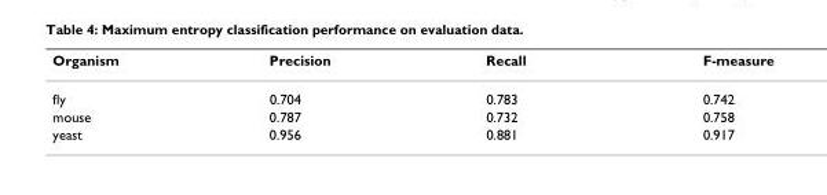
<table><thead><tr><td>Organism</td><td>Precision</td><td>Recall</td><td>F-measure</td></tr></thead><tbody><tr><td>fly</td><td>0.704</td><td>0.783</td><td>0.742</td></tr><tr><td>mouse</td><td>0.787</td><td>0.732</td><td>0.758</td></tr><tr><td>yeast</td><td>0.956</td><td>0.881</td><td>0.917</td></tr></tbody></table>